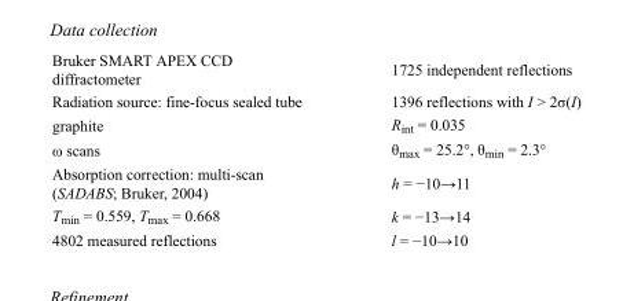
<table><tbody><tr><td>Bruker SMART APEX CCD diffractometer</td><td>1725 independent reflections</td></tr><tr><td>Radiation source: fine-focus sealed tube</td><td>1396 reflections with I &gt; 2σ(I)</td></tr><tr><td>graphite</td><td>R<sub>int</sub> = 0.035</td></tr><tr><td>ω scans</td><td>θ<sub>max</sub> = 25.2°, θ<sub>min</sub> = 2.3°</td></tr><tr><td>Absorption correction: multi-scan (SADABS; Bruker, 2004)</td><td>h = −10→11</td></tr><tr><td>T<sub>min</sub> = 0.559, T<sub>max</sub> = 0.668</td><td>k = −13→14</td></tr><tr><td>4802 measured reflections</td><td>l = −10→10</td></tr></tbody></table>